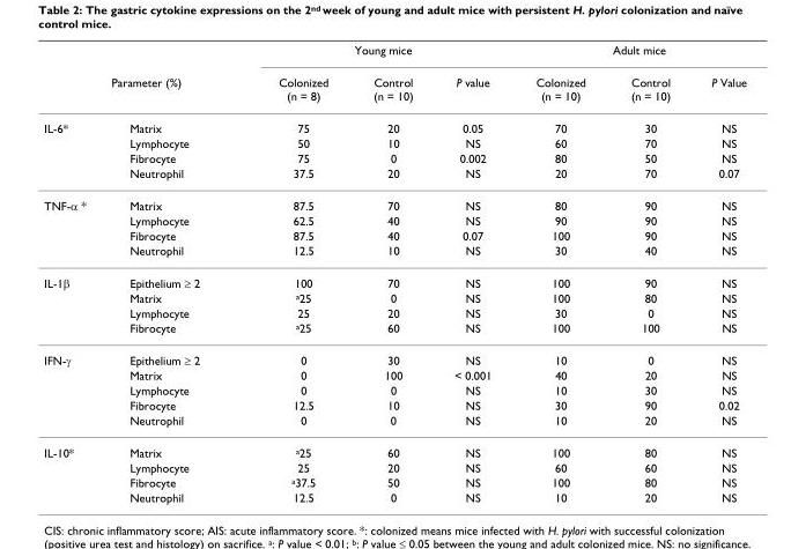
<table><thead><tr><td></td><td></td><td colspan="3">Young mice</td><td colspan="3">Adult mice</td></tr><tr><td colspan="2">Parameter (%)</td><td>Colonized (n = 8)</td><td>Control (n = 10)</td><td>P value</td><td>Colonized (n = 10)</td><td>Control (n = 10)</td><td>P Value</td></tr></thead><tbody><tr><td rowspan="4">IL-6*</td><td>Matrix</td><td>75</td><td>20</td><td>0.05</td><td>70</td><td>30</td><td>NS</td></tr><tr><td>Lymphocyte</td><td>50</td><td>10</td><td>NS</td><td>60</td><td>70</td><td>NS</td></tr><tr><td>Fibrocyte</td><td>75</td><td>0</td><td>0.002</td><td>80</td><td>50</td><td>NS</td></tr><tr><td>Neutrophil</td><td>37.5</td><td>20</td><td>NS</td><td>20</td><td>70</td><td>0.07</td></tr><tr><td rowspan="4">TNF-α *</td><td>Matrix</td><td>87.5</td><td>70</td><td>NS</td><td>80</td><td>90</td><td>NS</td></tr><tr><td>Lymphocyte</td><td>62.5</td><td>40</td><td>NS</td><td>90</td><td>90</td><td>NS</td></tr><tr><td>Fibrocyte</td><td>87.5</td><td>40</td><td>0.07</td><td>100</td><td>90</td><td>NS</td></tr><tr><td>Neutrophil</td><td>12.5</td><td>10</td><td>NS</td><td>30</td><td>40</td><td>NS</td></tr><tr><td rowspan="4">IL-1β</td><td>Epithelium ≥ 2</td><td>100</td><td>70</td><td>NS</td><td>100</td><td>90</td><td>NS</td></tr><tr><td>Matrix</td><td>a25</td><td>0</td><td>NS</td><td>100</td><td>80</td><td>NS</td></tr><tr><td>Lymphocyte</td><td>25</td><td>20</td><td>NS</td><td>30</td><td>0</td><td>NS</td></tr><tr><td>Fibrocyte</td><td>a25</td><td>60</td><td>NS</td><td>100</td><td>100</td><td>NS</td></tr><tr><td rowspan="5">IFN-γ</td><td>Epithelium ≥ 2</td><td>0</td><td>30</td><td>NS</td><td>10</td><td>0</td><td>NS</td></tr><tr><td>Matrix</td><td>0</td><td>100</td><td>&lt; 0.001</td><td>40</td><td>20</td><td>NS</td></tr><tr><td>Lymphocyte</td><td>0</td><td>0</td><td>NS</td><td>10</td><td>30</td><td>NS</td></tr><tr><td>Fibrocyte</td><td>12.5</td><td>10</td><td>NS</td><td>30</td><td>90</td><td>0.02</td></tr><tr><td>Neutrophil</td><td>0</td><td>0</td><td>NS</td><td>10</td><td>20</td><td>NS</td></tr><tr><td rowspan="4">IL-10*</td><td>Matrix</td><td>a25</td><td>60</td><td>NS</td><td>100</td><td>80</td><td>NS</td></tr><tr><td>Lymphocyte</td><td>25</td><td>20</td><td>NS</td><td>60</td><td>60</td><td>NS</td></tr><tr><td>Fibrocyte</td><td>a37.5</td><td>50</td><td>NS</td><td>100</td><td>80</td><td>NS</td></tr><tr><td>Neutrophil</td><td>12.5</td><td>0</td><td>NS</td><td>10</td><td>20</td><td>NS</td></tr></tbody></table>